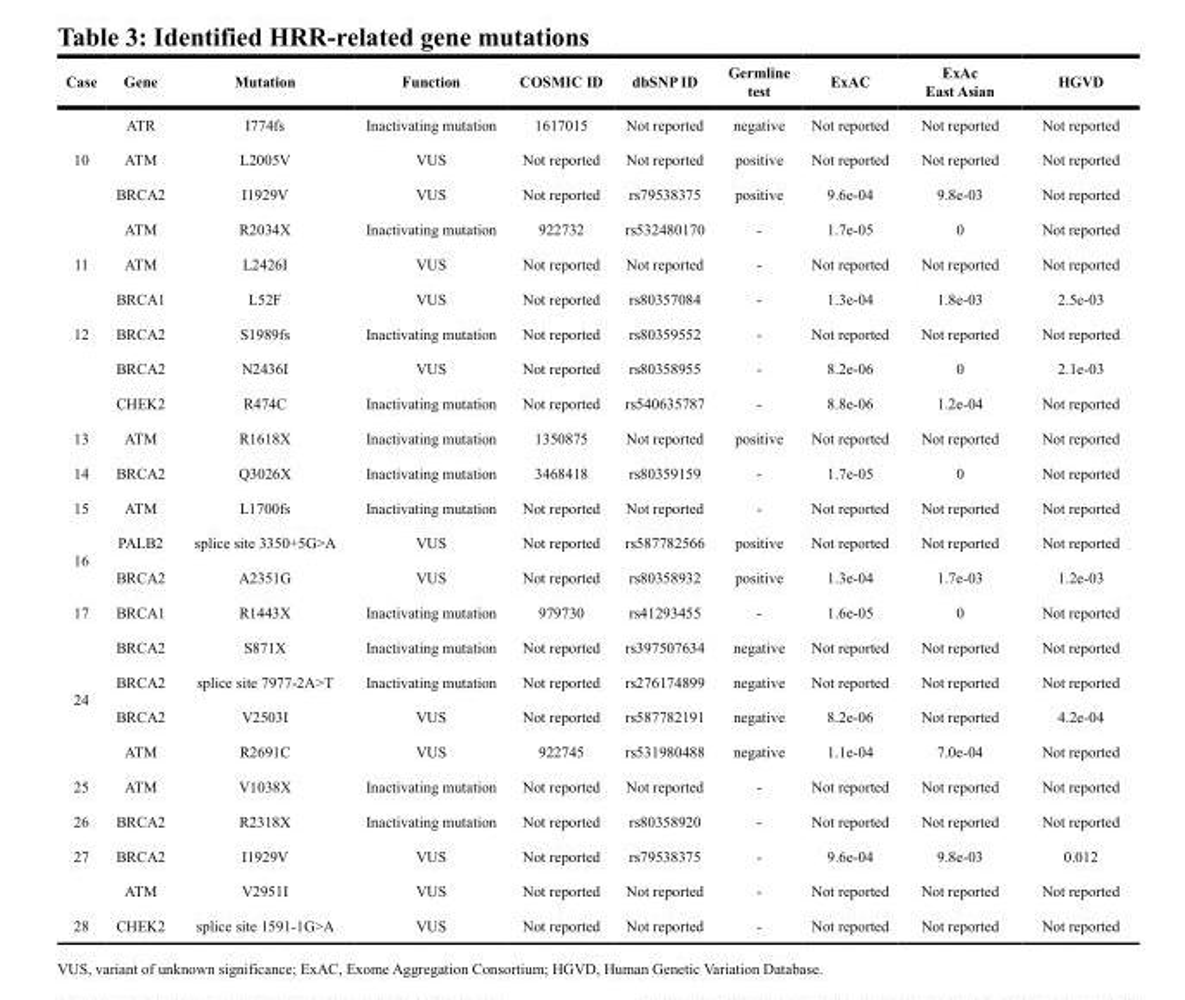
<table><thead><tr><td>Case</td><td>Gene</td><td>Mutation</td><td>Function</td><td>COSMIC ID</td><td>dbSNP ID</td><td>Germline test</td><td>ExAC</td><td>ExAc East Asian</td><td>HGVD</td></tr></thead><tbody><tr><td rowspan="3">10</td><td>ATR</td><td>I774fs</td><td>Inactivating mutation</td><td>1617015</td><td>Not reported</td><td>negative</td><td>Not reported</td><td>Not reported</td><td>Not reported</td></tr><tr><td>ATM</td><td>L2005V</td><td>VUS</td><td>Not reported</td><td>Not reported</td><td>positive</td><td>Not reported</td><td>Not reported</td><td>Not reported</td></tr><tr><td>BRCA2</td><td>I1929V</td><td>VUS</td><td>Not reported</td><td>rs79538375</td><td>positive</td><td>9.6e-04</td><td>9.8e-03</td><td>Not reported</td></tr><tr><td rowspan="3">11</td><td>ATM</td><td>R2034X</td><td>Inactivating mutation</td><td>922732</td><td>rs532480170</td><td>-</td><td>1.7e-05</td><td>0</td><td>Not reported</td></tr><tr><td>ATM</td><td>L2426I</td><td>VUS</td><td>Not reported</td><td>Not reported</td><td>-</td><td>Not reported</td><td>Not reported</td><td>Not reported</td></tr><tr><td>BRCA1</td><td>L52F</td><td>VUS</td><td>Not reported</td><td>rs80357084</td><td>-</td><td>1.3e-04</td><td>1.8e-03</td><td>2.5e-03</td></tr><tr><td rowspan="3">12</td><td>BRCA2</td><td>S1989fs</td><td>Inactivating mutation</td><td>Not reported</td><td>rs80359552</td><td>-</td><td>Not reported</td><td>Not reported</td><td>Not reported</td></tr><tr><td>BRCA2</td><td>N2436I</td><td>VUS</td><td>Not reported</td><td>rs80358955</td><td>-</td><td>8.2e-06</td><td>0</td><td>2.1e-03</td></tr><tr><td>CHEK2</td><td>R474C</td><td>Inactivating mutation</td><td>Not reported</td><td>rs540635787</td><td>-</td><td>8.8e-06</td><td>1.2e-04</td><td>Not reported</td></tr><tr><td>13</td><td>ATM</td><td>R1618X</td><td>Inactivating mutation</td><td>1350875</td><td>Not reported</td><td>positive</td><td>Not reported</td><td>Not reported</td><td>Not reported</td></tr><tr><td>14</td><td>BRCA2</td><td>Q3026X</td><td>Inactivating mutation</td><td>3468418</td><td>rs80359159</td><td>-</td><td>1.7e-05</td><td>0</td><td>Not reported</td></tr><tr><td>15</td><td>ATM</td><td>L1700fs</td><td>Inactivating mutation</td><td>Not reported</td><td>Not reported</td><td>-</td><td>Not reported</td><td>Not reported</td><td>Not reported</td></tr><tr><td rowspan="2">16</td><td>PALB2</td><td>splice site 3350+5G&gt;A</td><td>VUS</td><td>Not reported</td><td>rs587782566</td><td>positive</td><td>Not reported</td><td>Not reported</td><td>Not reported</td></tr><tr><td>BRCA2</td><td>A2351G</td><td>VUS</td><td>Not reported</td><td>rs80358932</td><td>positive</td><td>1.3e-04</td><td>1.7e-03</td><td>1.2e-03</td></tr><tr><td>17</td><td>BRCA1</td><td>R1443X</td><td>Inactivating mutation</td><td>979730</td><td>rs41293455</td><td>-</td><td>1.6e-05</td><td>0</td><td>Not reported</td></tr><tr><td rowspan="4">24</td><td>BRCA2</td><td>S871X</td><td>Inactivating mutation</td><td>Not reported</td><td>rs397507634</td><td>negative</td><td>Not reported</td><td>Not reported</td><td>Not reported</td></tr><tr><td>BRCA2</td><td>splice site 7977-2A&gt;T</td><td>Inactivating mutation</td><td>Not reported</td><td>rs276174899</td><td>negative</td><td>Not reported</td><td>Not reported</td><td>Not reported</td></tr><tr><td>BRCA2</td><td>V2503I</td><td>VUS</td><td>Not reported</td><td>rs587782191</td><td>negative</td><td>8.2e-06</td><td>Not reported</td><td>4.2e-04</td></tr><tr><td>ATM</td><td>R2691C</td><td>VUS</td><td>922745</td><td>rs531980488</td><td>negative</td><td>1.1e-04</td><td>7.0e-04</td><td>Not reported</td></tr><tr><td>25</td><td>ATM</td><td>V1038X</td><td>Inactivating mutation</td><td>Not reported</td><td>Not reported</td><td>-</td><td>Not reported</td><td>Not reported</td><td>Not reported</td></tr><tr><td>26</td><td>BRCA2</td><td>R2318X</td><td>Inactivating mutation</td><td>Not reported</td><td>rs80358920</td><td>-</td><td>Not reported</td><td>Not reported</td><td>Not reported</td></tr><tr><td rowspan="2">27</td><td>BRCA2</td><td>I1929V</td><td>VUS</td><td>Not reported</td><td>rs79538375</td><td>-</td><td>9.6e-04</td><td>9.8e-03</td><td>0.012</td></tr><tr><td>ATM</td><td>V2951I</td><td>VUS</td><td>Not reported</td><td>Not reported</td><td>-</td><td>Not reported</td><td>Not reported</td><td>Not reported</td></tr><tr><td>28</td><td>CHEK2</td><td>splice site 1591-1G&gt;A</td><td>VUS</td><td>Not reported</td><td>Not reported</td><td>-</td><td>Not reported</td><td>Not reported</td><td>Not reported</td></tr></tbody></table>